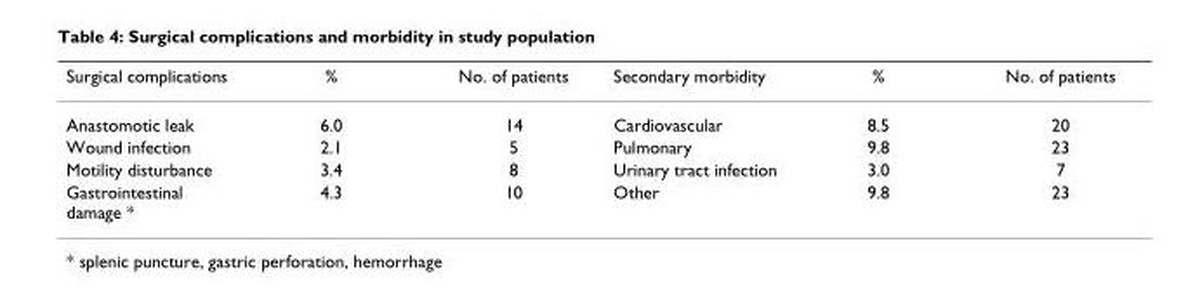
<table><thead><tr><td>Surgical complications</td><td>%</td><td>No. of patients</td><td>Secondary morbidity</td><td>%</td><td>No. of patients</td></tr></thead><tbody><tr><td>Anastomotic leak</td><td>6.0</td><td>14</td><td>Cardiovascular</td><td>8.5</td><td>20</td></tr><tr><td>Wound infection</td><td>2.1</td><td>5</td><td>Pulmonary</td><td>9.8</td><td>23</td></tr><tr><td>Motility disturbance</td><td>3.4</td><td>8</td><td>Urinary tract infection</td><td>3.0</td><td>7</td></tr><tr><td>Gastrointestinal damage *</td><td>4.3</td><td>10</td><td>Other</td><td>9.8</td><td>23</td></tr></tbody></table>